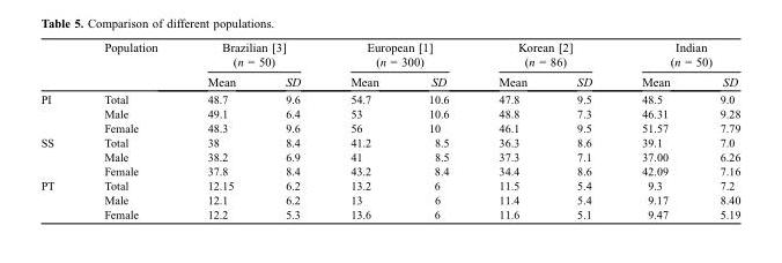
<table><thead><tr><td rowspan="2"></td><td rowspan="2">Population</td><td colspan="2">Brazilian [3] (n = 50)</td><td colspan="2">European [1] (n = 300)</td><td colspan="2">Korean [2] (n = 86)</td><td colspan="2">Indian (n = 50)</td></tr><tr><td>Mean</td><td>SD</td><td>Mean</td><td>SD</td><td>Mean</td><td>SD</td><td>Mean</td><td>SD</td></tr></thead><tbody><tr><td rowspan="3">PI</td><td>Total</td><td>48.7</td><td>9.6</td><td>54.7</td><td>10.6</td><td>47.8</td><td>9.5</td><td>48.5</td><td>9.0</td></tr><tr><td>Male</td><td>49.1</td><td>6.4</td><td>53</td><td>10.6</td><td>48.8</td><td>7.3</td><td>46.31</td><td>9.28</td></tr><tr><td>Female</td><td>48.3</td><td>9.6</td><td>56</td><td>10</td><td>46.1</td><td>9.5</td><td>51.57</td><td>7.79</td></tr><tr><td rowspan="3">SS</td><td>Total</td><td>38</td><td>8.4</td><td>41.2</td><td>8.5</td><td>36.3</td><td>8.6</td><td>39.1</td><td>7.0</td></tr><tr><td>Male</td><td>38.2</td><td>6.9</td><td>41</td><td>8.5</td><td>37.3</td><td>7.1</td><td>37.00</td><td>6.26</td></tr><tr><td>Female</td><td>37.8</td><td>8.4</td><td>43.2</td><td>8.4</td><td>34.4</td><td>8.6</td><td>42.09</td><td>7.16</td></tr><tr><td rowspan="3">PT</td><td>Total</td><td>12.15</td><td>6.2</td><td>13.2</td><td>6</td><td>11.5</td><td>5.4</td><td>9.3</td><td>7.2</td></tr><tr><td>Male</td><td>12.1</td><td>6.2</td><td>13</td><td>6</td><td>11.4</td><td>5.4</td><td>9.17</td><td>8.40</td></tr><tr><td>Female</td><td>12.2</td><td>5.3</td><td>13.6</td><td>6</td><td>11.6</td><td>5.1</td><td>9.47</td><td>5.19</td></tr></tbody></table>